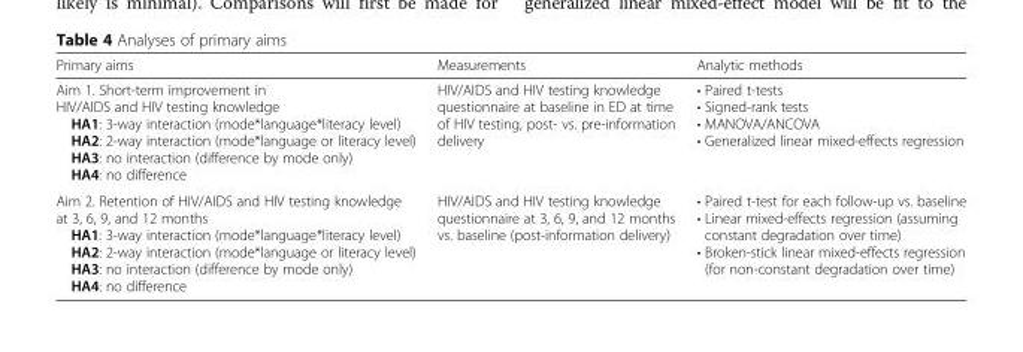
<table><thead><tr><td>Primary aims</td><td>Measurements</td><td>Analytic methods</td></tr></thead><tbody><tr><td>Aim 1. Short-term improvement in HIV/AIDS and HIV testing knowledge HA1: 3-way interaction (mode*language*literacy level) HA2: 2-way interaction (mode*language or literacy level) HA3: no interaction (difference by mode only) HA4: no difference</td><td>HIV/AIDS and HIV testing knowledge questionnaire at baseline in ED at time of HIV testing, post- vs. pre-information delivery</td><td>• Paired t-tests • Signed-rank tests • MANOVA/ANCOVA • Generalized linear mixed-effects regression</td></tr><tr><td>Aim 2. Retention of HIV/AIDS and HIV testing knowledge at 3, 6, 9, and 12 months HA1: 3-way interaction (mode*language*literacy level) HA2: 2-way interaction (mode*language or literacy level) HA3: no interaction (difference by mode only) HA4: no difference</td><td>HIV/AIDS and HIV testing knowledge questionnaire at 3, 6, 9, and 12 months vs. baseline (post-information delivery)</td><td>• Paired t-test for each follow-up vs. baseline • Linear mixed-effects regression (assuming constant degradation over time) • Broken-stick linear mixed-effects regression (for non-constant degradation over time)</td></tr></tbody></table>